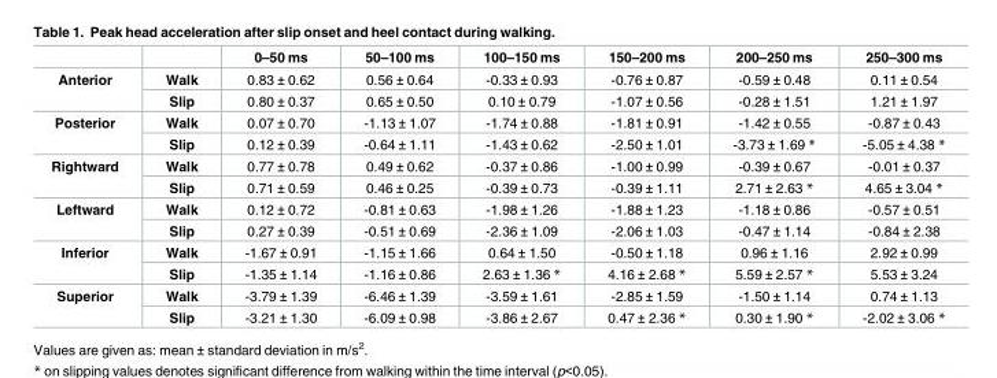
<table><thead><tr><td></td><td></td><td>0–50 ms</td><td>50–100 ms</td><td>100–150 ms</td><td>150–200 ms</td><td>200–250 ms</td><td>250–300 ms</td></tr></thead><tbody><tr><td rowspan="2">Anterior</td><td>Walk</td><td>0.83 ± 0.62</td><td>0.56 ± 0.64</td><td>-0.33 ± 0.93</td><td>-0.76 ± 0.87</td><td>-0.59 ± 0.48</td><td>0.11 ± 0.54</td></tr><tr><td>Slip</td><td>0.80 ± 0.37</td><td>0.65 ± 0.50</td><td>0.10 ± 0.79</td><td>-1.07 ± 0.56</td><td>-0.28 ± 1.51</td><td>1.21 ± 1.97</td></tr><tr><td rowspan="2">Posterior</td><td>Walk</td><td>0.07 ± 0.70</td><td>-1.13 ± 1.07</td><td>-1.74 ± 0.88</td><td>-1.81 ± 0.91</td><td>-1.42 ± 0.55</td><td>-0.87 ± 0.43</td></tr><tr><td>Slip</td><td>0.12 ± 0.39</td><td>-0.64 ± 1.11</td><td>-1.43 ± 0.62</td><td>-2.50 ± 1.01</td><td>-3.73 ± 1.69 *</td><td>-5.05 ± 4.38 *</td></tr><tr><td rowspan="2">Rightward</td><td>Walk</td><td>0.77 ± 0.78</td><td>0.49 ± 0.62</td><td>-0.37 ± 0.86</td><td>-1.00 ± 0.99</td><td>-0.39 ± 0.67</td><td>-0.01 ± 0.37</td></tr><tr><td>Slip</td><td>0.71 ± 0.59</td><td>0.46 ± 0.25</td><td>-0.39 ± 0.73</td><td>-0.39 ± 1.11</td><td>2.71 ± 2.63 *</td><td>4.65 ± 3.04 *</td></tr><tr><td rowspan="2">Leftward</td><td>Walk</td><td>0.12 ± 0.72</td><td>-0.81 ± 0.63</td><td>-1.98 ± 1.26</td><td>-1.88 ± 1.23</td><td>-1.18 ± 0.86</td><td>-0.57 ± 0.51</td></tr><tr><td>Slip</td><td>0.27 ± 0.39</td><td>-0.51 ± 0.69</td><td>-2.36 ± 1.09</td><td>-2.06 ± 1.03</td><td>-0.47 ± 1.14</td><td>-0.84 ± 2.38</td></tr><tr><td rowspan="2">Inferior</td><td>Walk</td><td>-1.67 ± 0.91</td><td>-1.15 ± 1.66</td><td>0.64 ± 1.50</td><td>-0.50 ± 1.18</td><td>0.96 ± 1.16</td><td>2.92 ± 0.99</td></tr><tr><td>Slip</td><td>-1.35 ± 1.14</td><td>-1.16 ± 0.86</td><td>2.63 ± 1.36 *</td><td>4.16 ± 2.68 *</td><td>5.59 ± 2.57 *</td><td>5.53 ± 3.24</td></tr><tr><td rowspan="2">Superior</td><td>Walk</td><td>-3.79 ± 1.39</td><td>-6.46 ± 1.39</td><td>-3.59 ± 1.61</td><td>-2.85 ± 1.59</td><td>-1.50 ± 1.14</td><td>0.74 ± 1.13</td></tr><tr><td>Slip</td><td>-3.21 ± 1.30</td><td>-6.09 ± 0.98</td><td>-3.86 ± 2.67</td><td>0.47 ± 2.36 *</td><td>0.30 ± 1.90 *</td><td>-2.02 ± 3.06 *</td></tr></tbody></table>